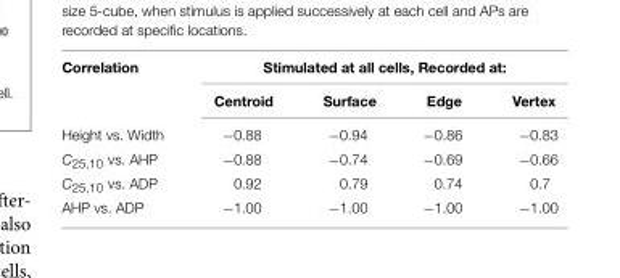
<table><thead><tr><td rowspan="2">Correlation</td><td colspan="4">Stimulated at all cells, Recorded at:</td></tr><tr><td>Centroid</td><td>Surface</td><td>Edge</td><td>Vertex</td></tr></thead><tbody><tr><td>Height vs. Width</td><td>−0.88</td><td>−0.94</td><td>−0.86</td><td>−0.83</td></tr><tr><td>C<sub>25,10</sub> vs. AHP</td><td>−0.88</td><td>−0.74</td><td>−0.69</td><td>−0.66</td></tr><tr><td>C<sub>25,10</sub> vs. ADP</td><td>0.92</td><td>0.79</td><td>0.74</td><td>0.7</td></tr><tr><td>AHP vs. ADP</td><td>−1.00</td><td>−1.00</td><td>−1.00</td><td>−1.00</td></tr></tbody></table>